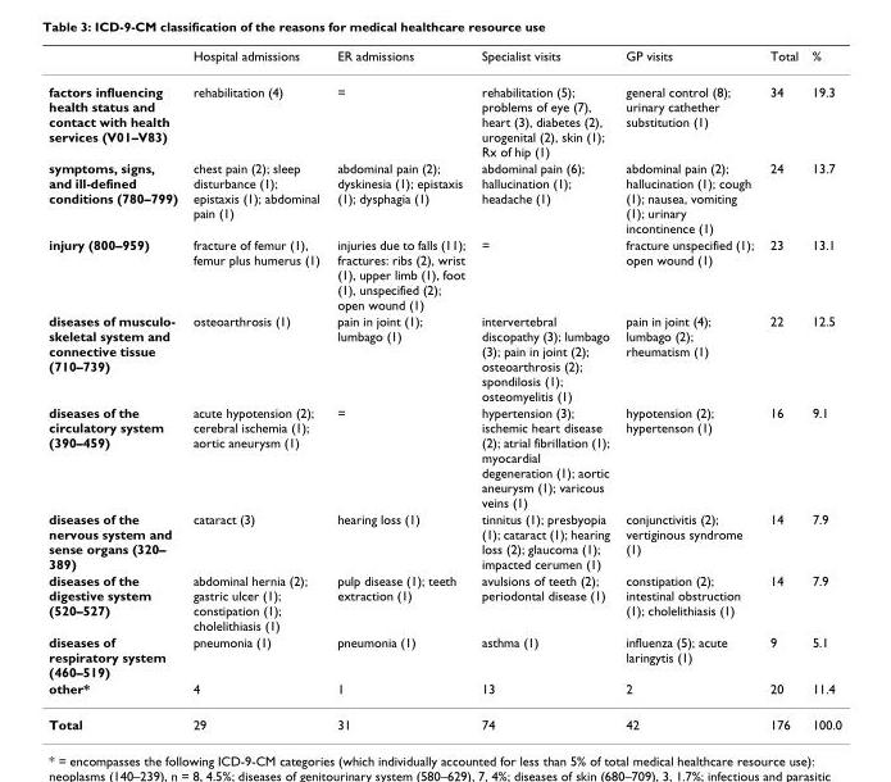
<table><thead><tr><td></td><td>Hospital admissions</td><td>ER admissions</td><td>Specialist visits</td><td>GP visits</td><td>Total</td><td>%</td></tr></thead><tbody><tr><td>factors influencing health status and contact with health services (V01–V83)</td><td>rehabilitation (4)</td><td>=</td><td>rehabilitation (5); problems of eye (7), heart (3), diabetes (2), urogenital (2), skin (1); Rx of hip (1)</td><td>general control (8); urinary cathether substitution (1)</td><td>34</td><td>19.3</td></tr><tr><td>symptoms, signs, and ill-defined conditions (780–799)</td><td>chest pain (2); sleep disturbance (1); epistaxis (1); abdominal pain (1)</td><td>abdominal pain (2); dyskinesia (1); epistaxis (1); dysphagia (1)</td><td>abdominal pain (6); hallucination (1); headache (1)</td><td>abdominal pain (2); hallucination (1); cough (1); nausea, vomiting (1); urinary incontinence (1)</td><td>24</td><td>13.7</td></tr><tr><td>injury (800–959)</td><td>fracture of femur (1), femur plus humerus (1)</td><td>injuries due to falls (11); fractures: ribs (2), wrist (1), upper limb (1), foot (1), unspecified (2); open wound (1)</td><td>=</td><td>fracture unspecified (1); open wound (1)</td><td>23</td><td>13.1</td></tr><tr><td>diseases of musculo- skeletal system and connective tissue (710–739)</td><td>osteoarthrosis (1)</td><td>pain in joint (1); lumbago (1)</td><td>intervertebral discopathy (3); lumbago (3); pain in joint (2); osteoarthrosis (2); spondilosis (1); osteomyelitis (1)</td><td>pain in joint (4); lumbago (2); rheumatism (1)</td><td>22</td><td>12.5</td></tr><tr><td>diseases of the circulatory system (390–459)</td><td>acute hypotension (2); cerebral ischemia (1); aortic aneurysm (1)</td><td>=</td><td>hypertension (3); ischemic heart disease (2); atrial fibrillation (1); myocardial degeneration (1); aortic aneurysm (1); varicous veins (1)</td><td>hypotension (2); hypertenson (1)</td><td>16</td><td>9.1</td></tr><tr><td>diseases of the nervous system and sense organs (320– 389)</td><td>cataract (3)</td><td>hearing loss (1)</td><td>tinnitus (1); presbyopia (1); cataract (1); hearing loss (2); glaucoma (1); impacted cerumen (1)</td><td>conjunctivitis (2); vertiginous syndrome (1)</td><td>14</td><td>7.9</td></tr><tr><td>diseases of the digestive system (520–527)</td><td>abdominal hernia (2); gastric ulcer (1); constipation (1); cholelithiasis (1)</td><td>pulp disease (1); teeth extraction (1)</td><td>avulsions of teeth (2); periodontal disease (1)</td><td>constipation (2); intestinal obstruction (1); cholelithiasis (1)</td><td>14</td><td>7.9</td></tr><tr><td>diseases of respiratory system (460–519)</td><td>pneumonia (1)</td><td>pneumonia (1)</td><td>asthma (1)</td><td>influenza (5); acute laringytis (1)</td><td>9</td><td>5.1</td></tr><tr><td>other*</td><td>4</td><td>1</td><td>13</td><td>2</td><td>20</td><td>11.4</td></tr><tr><td>Total</td><td>29</td><td>31</td><td>74</td><td>42</td><td>176</td><td>100.0</td></tr></tbody></table>